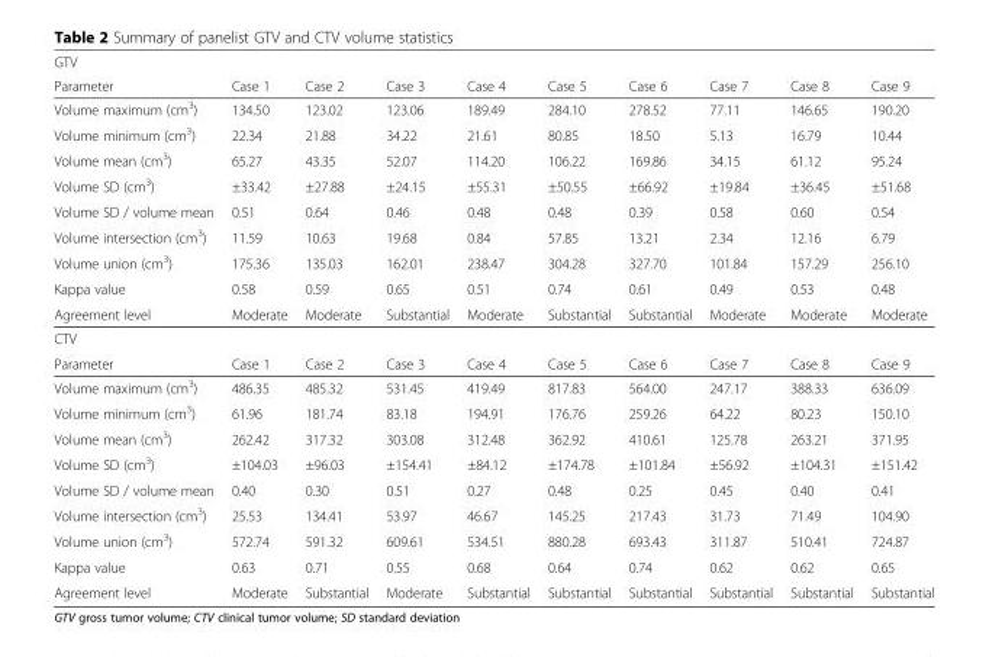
<table><thead><tr><td colspan="10">GTV</td></tr><tr><td>Parameter</td><td>Case 1</td><td>Case 2</td><td>Case 3</td><td>Case 4</td><td>Case 5</td><td>Case 6</td><td>Case 7</td><td>Case 8</td><td>Case 9</td></tr></thead><tbody><tr><td>Volume maximum (cm<sup>3</sup>)</td><td>134.50</td><td>123.02</td><td>123.06</td><td>189.49</td><td>284.10</td><td>278.52</td><td>77.11</td><td>146.65</td><td>190.20</td></tr><tr><td>Volume minimum (cm<sup>3</sup>)</td><td>22.34</td><td>21.88</td><td>34.22</td><td>21.61</td><td>80.85</td><td>18.50</td><td>5.13</td><td>16.79</td><td>10.44</td></tr><tr><td>Volume mean (cm<sup>3</sup>)</td><td>65.27</td><td>43.35</td><td>52.07</td><td>114.20</td><td>106.22</td><td>169.86</td><td>34.15</td><td>61.12</td><td>95.24</td></tr><tr><td>Volume SD (cm<sup>3</sup>)</td><td>±33.42</td><td>±27.88</td><td>±24.15</td><td>±55.31</td><td>±50.55</td><td>±66.92</td><td>±19.84</td><td>±36.45</td><td>±51.68</td></tr><tr><td>Volume SD / volume mean</td><td>0.51</td><td>0.64</td><td>0.46</td><td>0.48</td><td>0.48</td><td>0.39</td><td>0.58</td><td>0.60</td><td>0.54</td></tr><tr><td>Volume intersection (cm<sup>3</sup>)</td><td>11.59</td><td>10.63</td><td>19.68</td><td>0.84</td><td>57.85</td><td>13.21</td><td>2.34</td><td>12.16</td><td>6.79</td></tr><tr><td>Volume union (cm<sup>3</sup>)</td><td>175.36</td><td>135.03</td><td>162.01</td><td>238.47</td><td>304.28</td><td>327.70</td><td>101.84</td><td>157.29</td><td>256.10</td></tr><tr><td>Kappa value</td><td>0.58</td><td>0.59</td><td>0.65</td><td>0.51</td><td>0.74</td><td>0.61</td><td>0.49</td><td>0.53</td><td>0.48</td></tr><tr><td>Agreement level</td><td>Moderate</td><td>Moderate</td><td>Substantial</td><td>Moderate</td><td>Substantial</td><td>Substantial</td><td>Moderate</td><td>Moderate</td><td>Moderate</td></tr><tr><td colspan="10">CTV</td></tr><tr><td>Parameter</td><td>Case 1</td><td>Case 2</td><td>Case 3</td><td>Case 4</td><td>Case 5</td><td>Case 6</td><td>Case 7</td><td>Case 8</td><td>Case 9</td></tr><tr><td>Volume maximum (cm<sup>3</sup>)</td><td>486.35</td><td>485.32</td><td>531.45</td><td>419.49</td><td>817.83</td><td>564.00</td><td>247.17</td><td>388.33</td><td>636.09</td></tr><tr><td>Volume minimum (cm<sup>3</sup>)</td><td>61.96</td><td>181.74</td><td>83.18</td><td>194.91</td><td>176.76</td><td>259.26</td><td>64.22</td><td>80.23</td><td>150.10</td></tr><tr><td>Volume mean (cm<sup>3</sup>)</td><td>262.42</td><td>317.32</td><td>303.08</td><td>312.48</td><td>362.92</td><td>410.61</td><td>125.78</td><td>263.21</td><td>371.95</td></tr><tr><td>Volume SD (cm<sup>3</sup>)</td><td>±104.03</td><td>±96.03</td><td>±154.41</td><td>±84.12</td><td>±174.78</td><td>±101.84</td><td>±56.92</td><td>±104.31</td><td>±151.42</td></tr><tr><td>Volume SD / volume mean</td><td>0.40</td><td>0.30</td><td>0.51</td><td>0.27</td><td>0.48</td><td>0.25</td><td>0.45</td><td>0.40</td><td>0.41</td></tr><tr><td>Volume intersection (cm<sup>3</sup>)</td><td>25.53</td><td>134.41</td><td>53.97</td><td>46.67</td><td>145.25</td><td>217.43</td><td>31.73</td><td>71.49</td><td>104.90</td></tr><tr><td>Volume union (cm<sup>3</sup>)</td><td>572.74</td><td>591.32</td><td>609.61</td><td>534.51</td><td>880.28</td><td>693.43</td><td>311.87</td><td>510.41</td><td>724.87</td></tr><tr><td>Kappa value</td><td>0.63</td><td>0.71</td><td>0.55</td><td>0.68</td><td>0.64</td><td>0.74</td><td>0.62</td><td>0.62</td><td>0.65</td></tr><tr><td>Agreement level</td><td>Moderate</td><td>Substantial</td><td>Moderate</td><td>Substantial</td><td>Substantial</td><td>Substantial</td><td>Substantial</td><td>Substantial</td><td>Substantial</td></tr></tbody></table>